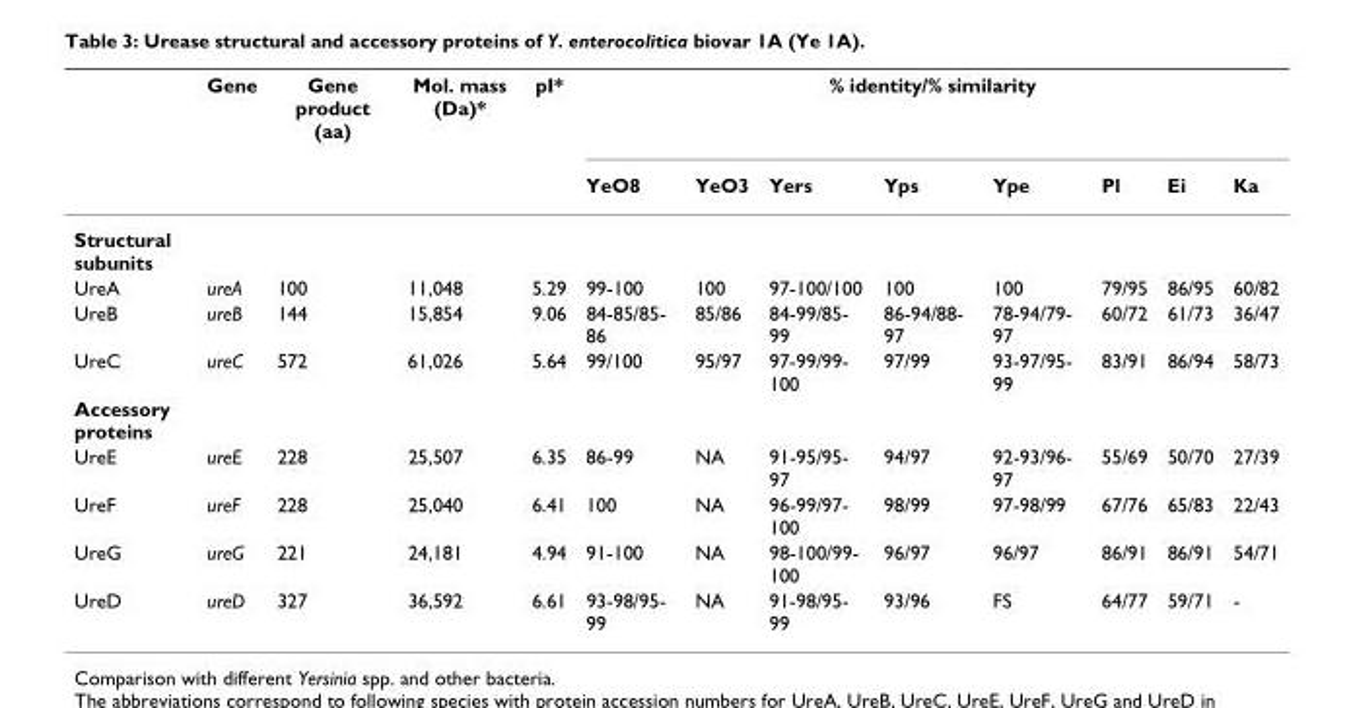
<table><thead><tr><td rowspan="2"></td><td rowspan="2">Gene</td><td rowspan="2">Gene product (aa)</td><td rowspan="2">Mol. mass (Da)*</td><td rowspan="2">pI*</td><td colspan="8">% identity/% similarity</td></tr><tr><td>YeO8</td><td>YeO3</td><td>Yers</td><td>Yps</td><td>Ype</td><td>Pl</td><td>Ei</td><td>Ka</td></tr></thead><tbody><tr><td colspan="13">Structural subunits</td></tr><tr><td>UreA</td><td>ureA</td><td>100</td><td>11,048</td><td>5.29</td><td>99-100</td><td>100</td><td>97-100/100</td><td>100</td><td>100</td><td>79/95</td><td>86/95</td><td>60/82</td></tr><tr><td>UreB</td><td>ureB</td><td>144</td><td>15,854</td><td>9.06</td><td>84-85/85- 86</td><td>85/86</td><td>84-99/85- 99</td><td>86-94/88- 97</td><td>78-94/79- 97</td><td>60/72</td><td>61/73</td><td>36/47</td></tr><tr><td>UreC</td><td>ureC</td><td>572</td><td>61,026</td><td>5.64</td><td>99/100</td><td>95/97</td><td>97-99/99- 100</td><td>97/99</td><td>93-97/95- 99</td><td>83/91</td><td>86/94</td><td>58/73</td></tr><tr><td colspan="13">Accessory proteins</td></tr><tr><td>UreE</td><td>ureE</td><td>228</td><td>25,507</td><td>6.35</td><td>86-99</td><td>NA</td><td>91-95/95- 97</td><td>94/97</td><td>92-93/96- 97</td><td>55/69</td><td>50/70</td><td>27/39</td></tr><tr><td>UreF</td><td>ureF</td><td>228</td><td>25,040</td><td>6.41</td><td>100</td><td>NA</td><td>96-99/97- 100</td><td>98/99</td><td>97-98/99</td><td>67/76</td><td>65/83</td><td>22/43</td></tr><tr><td>UreG</td><td>ureG</td><td>221</td><td>24,181</td><td>4.94</td><td>91-100</td><td>NA</td><td>98-100/99- 100</td><td>96/97</td><td>96/97</td><td>86/91</td><td>86/91</td><td>54/71</td></tr><tr><td>UreD</td><td>ureD</td><td>327</td><td>36,592</td><td>6.61</td><td>93-98/95- 99</td><td>NA</td><td>91-98/95- 99</td><td>93/96</td><td>FS</td><td>64/77</td><td>59/71</td><td>-</td></tr></tbody></table>